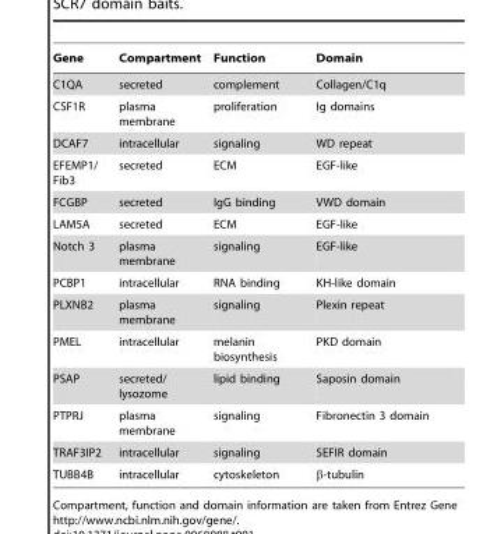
<table><thead><tr><td>Gene</td><td>Compartment</td><td>Function</td><td>Domain</td></tr></thead><tbody><tr><td>C1QA</td><td>secreted</td><td>complement</td><td>Collagen/C1q</td></tr><tr><td>CSF1R</td><td>plasma membrane</td><td>proliferation</td><td>Ig domains</td></tr><tr><td>DCAF7</td><td>intracellular</td><td>signaling</td><td>WD repeat</td></tr><tr><td>EFEMP1/ Fib3</td><td>secreted</td><td>ECM</td><td>EGF-like</td></tr><tr><td>FCGBP</td><td>secreted</td><td>IgG binding</td><td>VWD domain</td></tr><tr><td>LAM5A</td><td>secreted</td><td>ECM</td><td>EGF-like</td></tr><tr><td>Notch 3</td><td>plasma membrane</td><td>signaling</td><td>EGF-like</td></tr><tr><td>PCBP1</td><td>intracellular</td><td>RNA binding</td><td>KH-like domain</td></tr><tr><td>PLXNB2</td><td>plasma membrane</td><td>signaling</td><td>Plexin repeat</td></tr><tr><td>PMEL</td><td>intracellular</td><td>melanin biosynthesis</td><td>PKD domain</td></tr><tr><td>PSAP</td><td>secreted/ lysozome</td><td>lipid binding</td><td>Saposin domain</td></tr><tr><td>PTPRJ</td><td>plasma membrane</td><td>signaling</td><td>Fibronectin 3 domain</td></tr><tr><td>TRAF3IP2</td><td>intracellular</td><td>signaling</td><td>SEFIR domain</td></tr><tr><td>TUBB4B</td><td>intracellular</td><td>cytoskeleton</td><td>β-tubulin</td></tr></tbody></table>